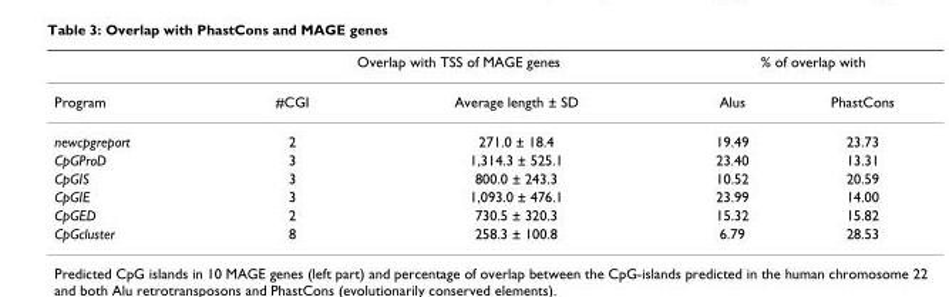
<table><thead><tr><td rowspan="2">Program</td><td colspan="2">Overlap with TSS of MAGE genes</td><td colspan="2">% of overlap with</td></tr><tr><td>#CGI</td><td>Average length ± SD</td><td>Alus</td><td>PhastCons</td></tr></thead><tbody><tr><td>newcpgreport</td><td>2</td><td>271.0 ± 18.4</td><td>19.49</td><td>23.73</td></tr><tr><td>CpGProD</td><td>3</td><td>1,314.3 ± 525.1</td><td>23.40</td><td>13.31</td></tr><tr><td>CpGIS</td><td>3</td><td>800.0 ± 243.3</td><td>10.52</td><td>20.59</td></tr><tr><td>CpGIE</td><td>3</td><td>1,093.0 ± 476.1</td><td>23.99</td><td>14.00</td></tr><tr><td>CpGED</td><td>2</td><td>730.5 ± 320.3</td><td>15.32</td><td>15.82</td></tr><tr><td>CpGcluster</td><td>8</td><td>258.3 ± 100.8</td><td>6.79</td><td>28.53</td></tr></tbody></table>